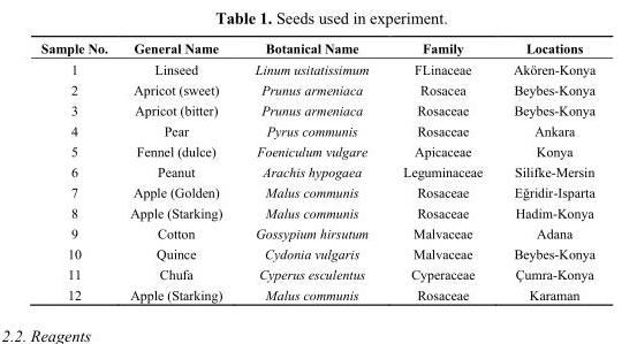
<table><thead><tr><td>Sample No.</td><td>General Name</td><td>Botanical Name</td><td>Family</td><td>Locations</td></tr></thead><tbody><tr><td>1</td><td>Linseed</td><td>Linum usitatissimum</td><td>FLinaceae</td><td>Akören-Konya</td></tr><tr><td>2</td><td>Apricot (sweet)</td><td>Prunus armeniaca</td><td>Rosacea</td><td>Beybes-Konya</td></tr><tr><td>3</td><td>Apricot (bitter)</td><td>Prunus armeniaca</td><td>Rosaceae</td><td>Beybes-Konya</td></tr><tr><td>4</td><td>Pear</td><td>Pyrus communis</td><td>Rosaceae</td><td>Ankara</td></tr><tr><td>5</td><td>Fennel (dulce)</td><td>Foeniculum vulgare</td><td>Apicaceae</td><td>Konya</td></tr><tr><td>6</td><td>Peanut</td><td>Arachis hypogaea</td><td>Leguminaceae</td><td>Silifke-Mersin</td></tr><tr><td>7</td><td>Apple (Golden)</td><td>Malus communis</td><td>Rosaceae</td><td>Eğridir-Isparta</td></tr><tr><td>8</td><td>Apple (Starking)</td><td>Malus communis</td><td>Rosaceae</td><td>Hadim-Konya</td></tr><tr><td>9</td><td>Cotton</td><td>Gossypium hirsutum</td><td>Malvaceae</td><td>Adana</td></tr><tr><td>10</td><td>Quince</td><td>Cydonia vulgaris</td><td>Malvaceae</td><td>Beybes-Konya</td></tr><tr><td>11</td><td>Chufa</td><td>Cyperus esculentus</td><td>Cyperaceae</td><td>Çumra-Konya</td></tr><tr><td>12</td><td>Apple (Starking)</td><td>Malus communis</td><td>Rosaceae</td><td>Karaman</td></tr></tbody></table>